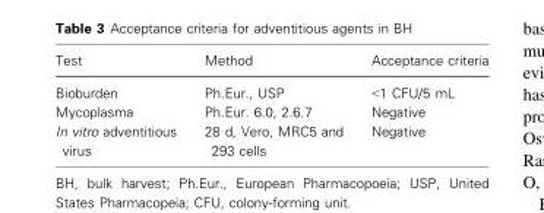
<table><thead><tr><td>Test</td><td>Method</td><td>Acceptance criteria</td></tr></thead><tbody><tr><td>Bioburden</td><td>Ph.Eur., USP</td><td>&lt;1 CFU/5 mL</td></tr><tr><td>Mycoplasma</td><td>Ph.Eur. 6.0, 2.6.7</td><td>Negative</td></tr><tr><td>In vitro adventitious virus</td><td>28 d, Vero, MRC5 and 293 cells</td><td>Negative</td></tr></tbody></table>